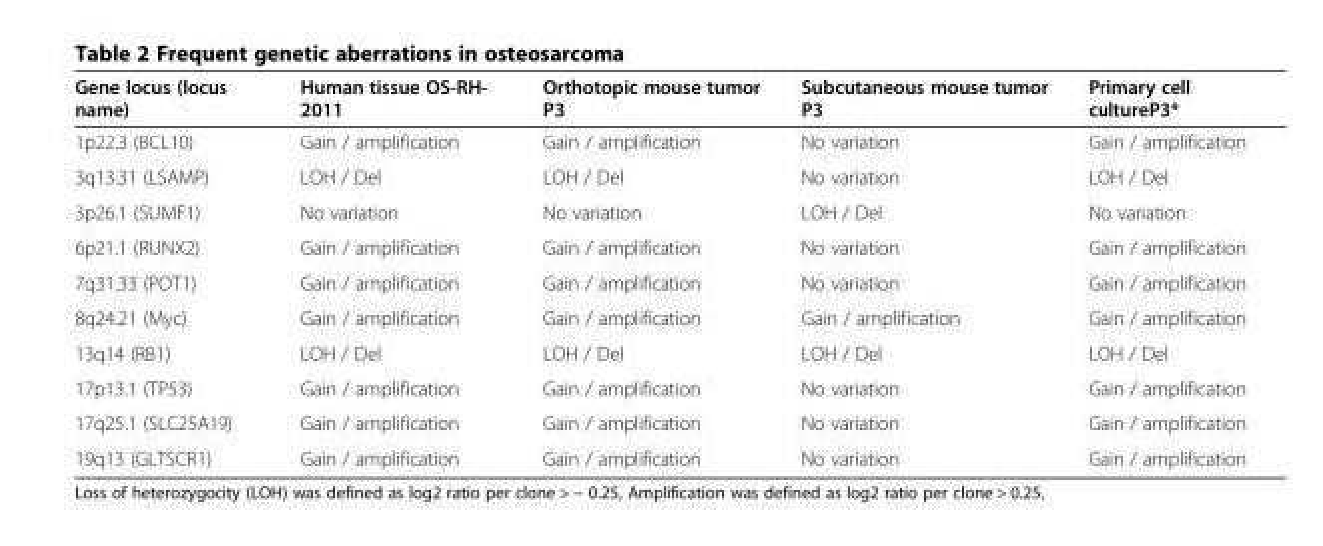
<table><thead><tr><td>Gene locus (locus name)</td><td>Human tissue OS-RH- 2011</td><td>Orthotopic mouse tumor P3</td><td>Subcutaneous mouse tumor P3</td><td>Primary cell cultureP3*</td></tr></thead><tbody><tr><td>1p22.3 (BCL10)</td><td>Gain / amplification</td><td>Gain / amplification</td><td>No variation</td><td>Gain / amplification</td></tr><tr><td>3q13.31 (LSAMP)</td><td>LOH / Del</td><td>LOH / Del</td><td>No variation</td><td>LOH / Del</td></tr><tr><td>3p26.1 (SUMF1)</td><td>No variation</td><td>No variation</td><td>LOH / Del</td><td>No variation</td></tr><tr><td>6p21.1 (RUNX2)</td><td>Gain / amplification</td><td>Gain / amplification</td><td>No variation</td><td>Gain / amplification</td></tr><tr><td>7q31.33 (POT1)</td><td>Gain / amplification</td><td>Gain / amplification</td><td>No variation</td><td>Gain / amplification</td></tr><tr><td>8q24.21 (Myc)</td><td>Gain / amplification</td><td>Gain / amplification</td><td>Gain / amplification</td><td>Gain / amplification</td></tr><tr><td>13q14 (RB1)</td><td>LOH / Del</td><td>LOH / Del</td><td>LOH / Del</td><td>LOH / Del</td></tr><tr><td>17p13.1 (TP53)</td><td>Gain / amplification</td><td>Gain / amplification</td><td>No variation</td><td>Gain / amplification</td></tr><tr><td>17q25.1 (SLC25A19)</td><td>Gain / amplification</td><td>Gain / amplification</td><td>No variation</td><td>Gain / amplification</td></tr><tr><td>19q13 (GLTSCR1)</td><td>Gain / amplification</td><td>Gain / amplification</td><td>No variation</td><td>Gain / amplification</td></tr></tbody></table>